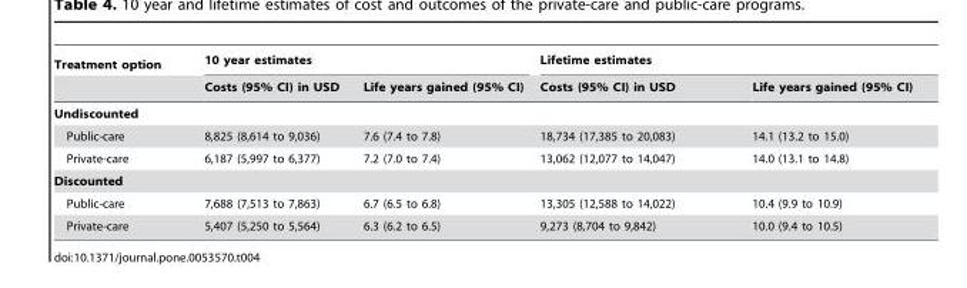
<table><thead><tr><td rowspan="2">Treatment option</td><td colspan="2">10 year estimates</td><td colspan="2">Lifetime estimates</td></tr><tr><td>Costs (95% CI) in USD</td><td>Life years gained (95% CI)</td><td>Costs (95% CI) in USD</td><td>Life years gained (95% CI)</td></tr></thead><tbody><tr><td colspan="5">Undiscounted</td></tr><tr><td>Public-care</td><td>8,825 (8,614 to 9,036)</td><td>7.6 (7.4 to 7.8)</td><td>18,734 (17,385 to 20,083)</td><td>14.1 (13.2 to 15.0)</td></tr><tr><td>Private-care</td><td>6,187 (5,997 to 6,377)</td><td>7.2 (7.0 to 7.4)</td><td>13,062 (12,077 to 14,047)</td><td>14.0 (13.1 to 14.8)</td></tr><tr><td colspan="5">Discounted</td></tr><tr><td>Public-care</td><td>7,688 (7,513 to 7,863)</td><td>6.7 (6.5 to 6.8)</td><td>13,305 (12,588 to 14,022)</td><td>10.4 (9.9 to 10.9)</td></tr><tr><td>Private-care</td><td>5,407 (5,250 to 5,564)</td><td>6.3 (6.2 to 6.5)</td><td>9,273 (8,704 to 9,842)</td><td>10.0 (9.4 to 10.5)</td></tr></tbody></table>